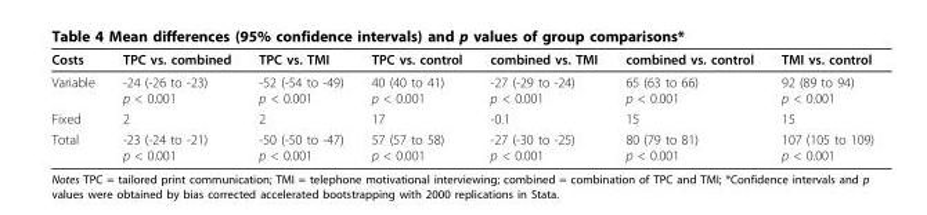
<table><thead><tr><td>Costs</td><td>TPC vs. combined</td><td>TPC vs. TMI</td><td>TPC vs. control</td><td>combined vs. TMI</td><td>combined vs. control</td><td>TMI vs. control</td></tr></thead><tbody><tr><td>Variable</td><td>-24 (-26 to -23) p &lt; 0.001</td><td>-52 (-54 to -49) p &lt; 0.001</td><td>40 (40 to 41) p &lt; 0.001</td><td>-27 (-29 to -24) p &lt; 0.001</td><td>65 (63 to 66) p &lt; 0.001</td><td>92 (89 to 94) p &lt; 0.001</td></tr><tr><td>Fixed</td><td>2</td><td>2</td><td>17</td><td>-0.1</td><td>15</td><td>15</td></tr><tr><td>Total</td><td>-23 (-24 to -21) p &lt; 0.001</td><td>-50 (-50 to -47) p &lt; 0.001</td><td>57 (57 to 58) p &lt; 0.001</td><td>-27 (-30 to -25) p &lt; 0.001</td><td>80 (79 to 81) p &lt; 0.001</td><td>107 (105 to 109) p &lt; 0.001</td></tr></tbody></table>